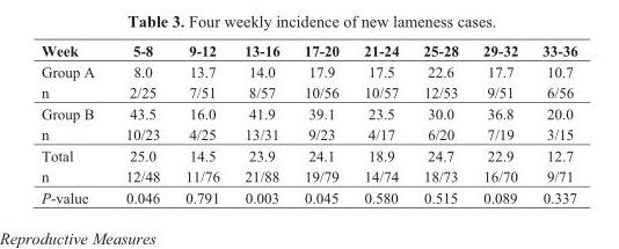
<table><thead><tr><td>Week</td><td>5-8</td><td>9-12</td><td>13-16</td><td>17-20</td><td>21-24</td><td>25-28</td><td>29-32</td><td>33-36</td></tr></thead><tbody><tr><td>Group A</td><td>8.0</td><td>13.7</td><td>14.0</td><td>17.9</td><td>17.5</td><td>22.6</td><td>17.7</td><td>10.7</td></tr><tr><td>n</td><td>2/25</td><td>7/51</td><td>8/57</td><td>10/56</td><td>10/57</td><td>12/53</td><td>9/51</td><td>6/56</td></tr><tr><td>Group B</td><td>43.5</td><td>16.0</td><td>41.9</td><td>39.1</td><td>23.5</td><td>30.0</td><td>36.8</td><td>20.0</td></tr><tr><td>n</td><td>10/23</td><td>4/25</td><td>13/31</td><td>9/23</td><td>4/17</td><td>6/20</td><td>7/19</td><td>3/15</td></tr><tr><td>Total</td><td>25.0</td><td>14.5</td><td>23.9</td><td>24.1</td><td>18.9</td><td>24.7</td><td>22.9</td><td>12.7</td></tr><tr><td>n</td><td>12/48</td><td>11/76</td><td>21/88</td><td>19/79</td><td>14/74</td><td>18/73</td><td>16/70</td><td>9/71</td></tr><tr><td>P-value</td><td>0.046</td><td>0.791</td><td>0.003</td><td>0.045</td><td>0.580</td><td>0.515</td><td>0.089</td><td>0.337</td></tr></tbody></table>